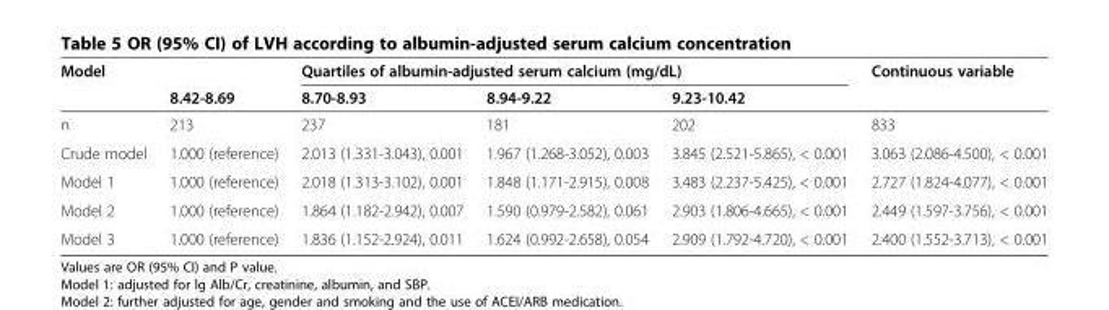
<table><thead><tr><td rowspan="2">Model</td><td rowspan="2">8.42-8.69</td><td colspan="3">Quartiles of albumin-adjusted serum calcium (mg/dL)</td><td rowspan="2">Continuous variable</td></tr><tr><td>8.70-8.93</td><td>8.94-9.22</td><td>9.23-10.42</td></tr></thead><tbody><tr><td>n</td><td>213</td><td>237</td><td>181</td><td>202</td><td>833</td></tr><tr><td>Crude model</td><td>1.000 (reference)</td><td>2.013 (1.331-3.043), 0.001</td><td>1.967 (1.268-3.052), 0.003</td><td>3.845 (2.521-5.865), &lt; 0.001</td><td>3.063 (2.086-4.500), &lt; 0.001</td></tr><tr><td>Model 1</td><td>1.000 (reference)</td><td>2.018 (1.313-3.102), 0.001</td><td>1.848 (1.171-2.915), 0.008</td><td>3.483 (2.237-5.425), &lt; 0.001</td><td>2.727 (1.824-4.077), &lt; 0.001</td></tr><tr><td>Model 2</td><td>1.000 (reference)</td><td>1.864 (1.182-2.942), 0.007</td><td>1.590 (0.979-2.582), 0.061</td><td>2.903 (1.806-4.665), &lt; 0.001</td><td>2.449 (1.597-3.756), &lt; 0.001</td></tr><tr><td>Model 3</td><td>1.000 (reference)</td><td>1.836 (1.152-2.924), 0.011</td><td>1.624 (0.992-2.658), 0.054</td><td>2.909 (1.792-4.720), &lt; 0.001</td><td>2.400 (1.552-3.713), &lt; 0.001</td></tr></tbody></table>